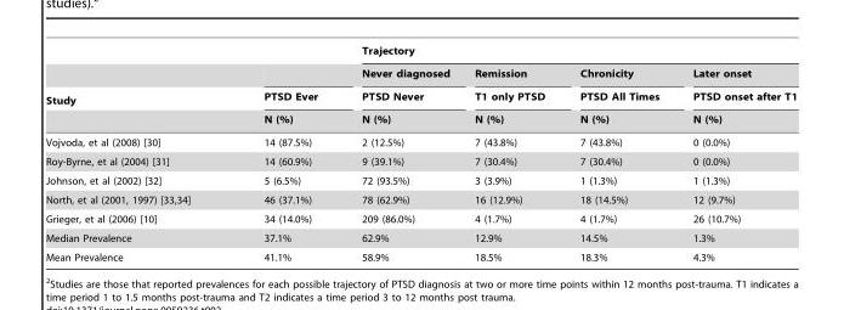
<table><thead><tr><td rowspan="4">Study</td><td rowspan="4">PTSD Ever N (%)</td><td colspan="4">Trajectory</td></tr><tr><td rowspan="3">Never diagnosed PTSD Never N (%)</td><td rowspan="3">Remission T1 only PTSD N (%)</td><td rowspan="3">Chronicity PTSD All Times N (%)</td><td rowspan="3">Later onset PTSD onset after T1 N (%)</td></tr><tr></tr><tr></tr></thead><tbody><tr><td>Vojvoda, et al (2008) [30]</td><td>14 (87.5%)</td><td>2 (12.5%)</td><td>7 (43.8%)</td><td>7 (43.8%)</td><td>0 (0.0%)</td></tr><tr><td>Roy-Byrne, et al (2004) [31]</td><td>14 (60.9%)</td><td>9 (39.1%)</td><td>7 (30.4%)</td><td>7 (30.4%)</td><td>0 (0.0%)</td></tr><tr><td>Johnson, et al (2002) [32]</td><td>5 (6.5%)</td><td>72 (93.5%)</td><td>3 (3.9%)</td><td>1 (1.3%)</td><td>1 (1.3%)</td></tr><tr><td>North, et al (2001, 1997) [33,34]</td><td>46 (37.1%)</td><td>78 (62.9%)</td><td>16 (12.9%)</td><td>18 (14.5%)</td><td>12 (9.7%)</td></tr><tr><td>Grieger, et al (2006) [10]</td><td>34 (14.0%)</td><td>209 (86.0%)</td><td>4 (1.7%)</td><td>4 (1.7%)</td><td>26 (10.7%)</td></tr><tr><td>Median Prevalence</td><td>37.1%</td><td>62.9%</td><td>12.9%</td><td>14.5%</td><td>1.3%</td></tr><tr><td>Mean Prevalence</td><td>41.1%</td><td>58.9%</td><td>18.5%</td><td>18.3%</td><td>4.3%</td></tr></tbody></table>